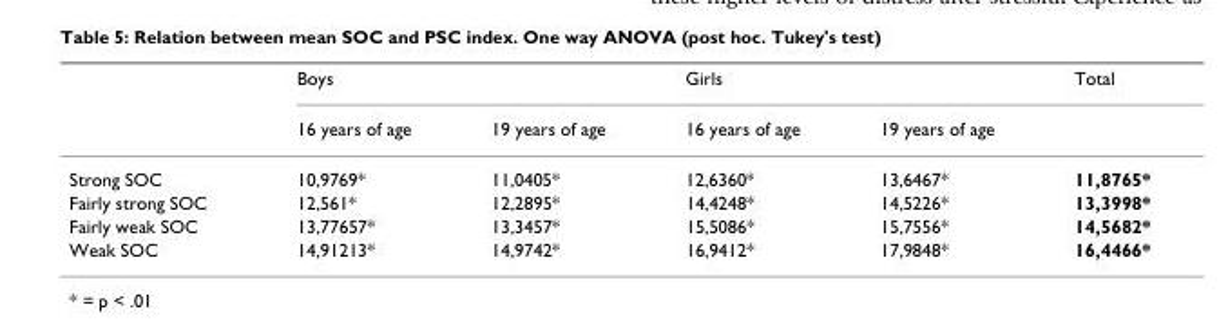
<table><thead><tr><td rowspan="2"></td><td colspan="2">Boys</td><td colspan="2">Girls</td><td rowspan="2">Total</td></tr><tr><td>16 years of age</td><td>19 years of age</td><td>16 years of age</td><td>19 years of age</td></tr></thead><tbody><tr><td>Strong SOC</td><td>10,9769*</td><td>11,0405*</td><td>12,6360*</td><td>13,6467*</td><td>11,8765*</td></tr><tr><td>Fairly strong SOC</td><td>12,561*</td><td>12,2895*</td><td>14,4248*</td><td>14,5226*</td><td>13,3998*</td></tr><tr><td>Fairly weak SOC</td><td>13,77657*</td><td>13,3457*</td><td>15,5086*</td><td>15,7556*</td><td>14,5682*</td></tr><tr><td>Weak SOC</td><td>14,91213*</td><td>14,9742*</td><td>16,9412*</td><td>17,9848*</td><td>16,4466*</td></tr></tbody></table>